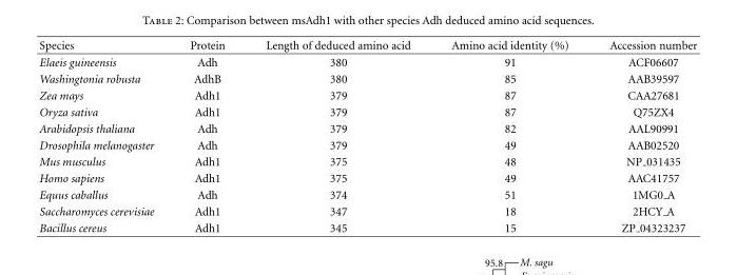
<table><thead><tr><td>Species</td><td>Protein</td><td>Length of deduced amino acid</td><td>Amino acid identity (%)</td><td>Accession number</td></tr></thead><tbody><tr><td>Elaeis guineensis</td><td>Adh</td><td>380</td><td>91</td><td>ACF06607</td></tr><tr><td>Washingtonia robusta</td><td>AdhB</td><td>380</td><td>85</td><td>AAB39597</td></tr><tr><td>Zea mays</td><td>Adh1</td><td>379</td><td>87</td><td>CAA27681</td></tr><tr><td>Oryza sativa</td><td>Adh1</td><td>379</td><td>87</td><td>Q75ZX4</td></tr><tr><td>Arabidopsis thaliana</td><td>Adh</td><td>379</td><td>82</td><td>AAL90991</td></tr><tr><td>Drosophila melanogaster</td><td>Adh</td><td>379</td><td>49</td><td>AAB02520</td></tr><tr><td>Mus musculus</td><td>Adh1</td><td>375</td><td>48</td><td>NP 031435</td></tr><tr><td>Homo sapiens</td><td>Adh1</td><td>375</td><td>49</td><td>AAC41757</td></tr><tr><td>Equus caballus</td><td>Adh</td><td>374</td><td>51</td><td>1MG0 A</td></tr><tr><td>Saccharomyces cerevisiae</td><td>Adh1</td><td>347</td><td>18</td><td>2HCY A</td></tr><tr><td>Bacillus cereus</td><td>Adh1</td><td>345</td><td>15</td><td>ZP 04323237</td></tr></tbody></table>